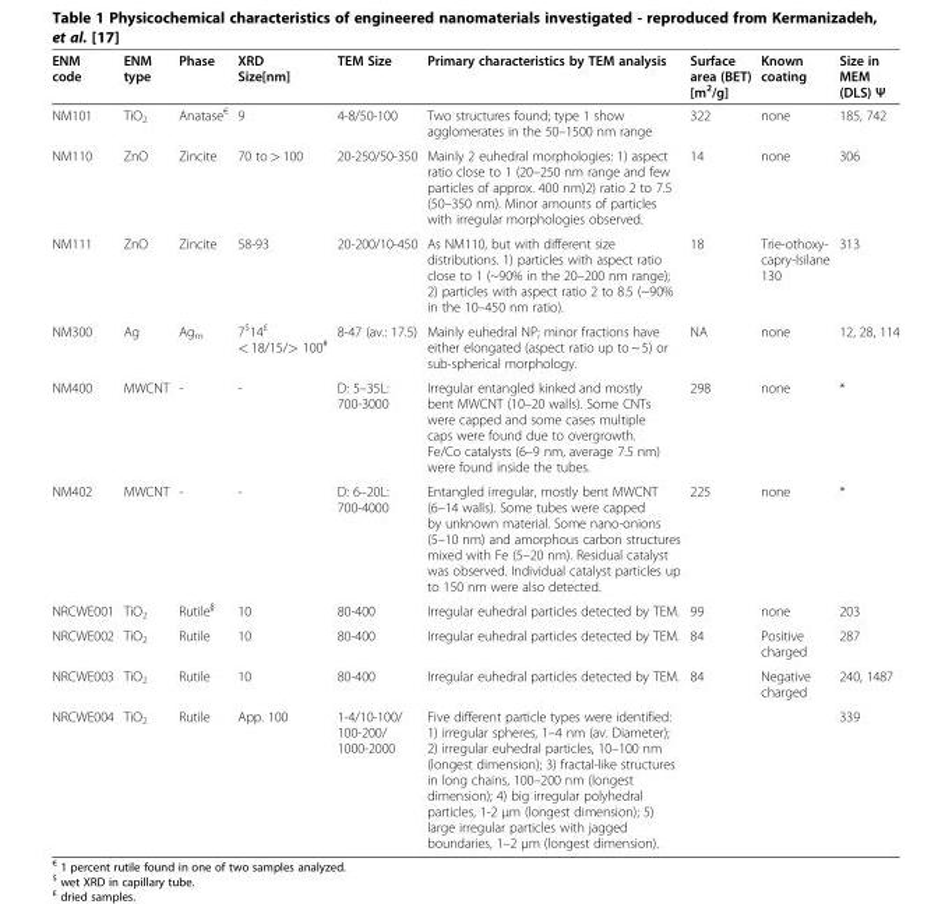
<table><thead><tr><td>ENM code</td><td>ENM type</td><td>Phase</td><td>XRD Size[nm]</td><td>TEM Size</td><td>Primary characteristics by TEM analysis</td><td>Surface area (BET) [m<sup>2</sup>/g]</td><td>Known coating</td><td>Size in MEM (DLS) Ψ</td></tr></thead><tbody><tr><td>NM101</td><td>TiO<sub>2</sub></td><td>Anatase<sup>€</sup></td><td>9</td><td>4-8/50-100</td><td>Two structures found; type 1 show agglomerates in the 50–1500 nm range</td><td>322</td><td>none</td><td>185, 742</td></tr><tr><td>NM110</td><td>ZnO</td><td>Zincite</td><td>70 to &gt; 100</td><td>20-250/50-350</td><td>Mainly 2 euhedral morphologies: 1) aspect ratio close to 1 (20–250 nm range and few particles of approx. 400 nm)2) ratio 2 to 7.5 (50–350 nm). Minor amounts of particles with irregular morphologies observed.</td><td>14</td><td>none</td><td>306</td></tr><tr><td>NM111</td><td>ZnO</td><td>Zincite</td><td>58-93</td><td>20-200/10-450</td><td>As NM110, but with different size distributions. 1) particles with aspect ratio close to 1 (~90% in the 20–200 nm range); 2) particles with aspect ratio 2 to 8.5 (~90% in the 10–450 nm ratio).</td><td>18</td><td>Trie-othoxy- capry-lsilane 130</td><td>313</td></tr><tr><td>NM300</td><td>Ag</td><td>Ag<sub>m</sub></td><td>7<sup>$</sup>14<sup>£</sup> &lt; 18/15/&gt; 100<sup>#</sup></td><td>8-47 (av.: 17.5)</td><td>Mainly euhedral NP; minor fractions have either elongated (aspect ratio up to ~ 5) or sub-spherical morphology.</td><td>NA</td><td>none</td><td>12, 28, 114</td></tr><tr><td>NM400</td><td>MWCNT</td><td>-</td><td>-</td><td>D: 5–35L: 700-3000</td><td>Irregular entangled kinked and mostly bent MWCNT (10–20 walls). Some CNTs were capped and some cases multiple caps were found due to overgrowth. Fe/Co catalysts (6–9 nm, average 7.5 nm) were found inside the tubes.</td><td>298</td><td>none</td><td>*</td></tr><tr><td>NM402</td><td>MWCNT</td><td>-</td><td>-</td><td>D: 6–20L: 700-4000</td><td>Entangled irregular, mostly bent MWCNT (6–14 walls). Some tubes were capped by unknown material. Some nano-onions (5–10 nm) and amorphous carbon structures mixed with Fe (5–20 nm). Residual catalyst was observed. Individual catalyst particles up to 150 nm were also detected.</td><td>225</td><td>none</td><td>*</td></tr><tr><td>NRCWE001</td><td>TiO<sub>2</sub></td><td>Rutile<sup>§</sup></td><td>10</td><td>80-400</td><td>Irregular euhedral particles detected by TEM.</td><td>99</td><td>none</td><td>203</td></tr><tr><td>NRCWE002</td><td>TiO<sub>2</sub></td><td>Rutile</td><td>10</td><td>80-400</td><td>Irregular euhedral particles detected by TEM.</td><td>84</td><td>Positive charged</td><td>287</td></tr><tr><td>NRCWE003</td><td>TiO<sub>2</sub></td><td>Rutile</td><td>10</td><td>80-400</td><td>Irregular euhedral particles detected by TEM.</td><td>84</td><td>Negative charged</td><td>240, 1487</td></tr><tr><td>NRCWE004</td><td>TiO<sub>2</sub></td><td>Rutile</td><td>App. 100</td><td>1-4/10-100/ 100-200/ 1000-2000</td><td>Five different particle types were identified: 1) irregular spheres, 1–4 nm (av. Diameter); 2) irregular euhedral particles, 10–100 nm (longest dimension); 3) fractal-like structures in long chains, 100–200 nm (longest dimension); 4) big irregular polyhedral particles, 1-2 μm (longest dimension); 5) large irregular particles with jagged boundaries, 1–2 μm (longest dimension).</td><td></td><td></td><td>339</td></tr></tbody></table>